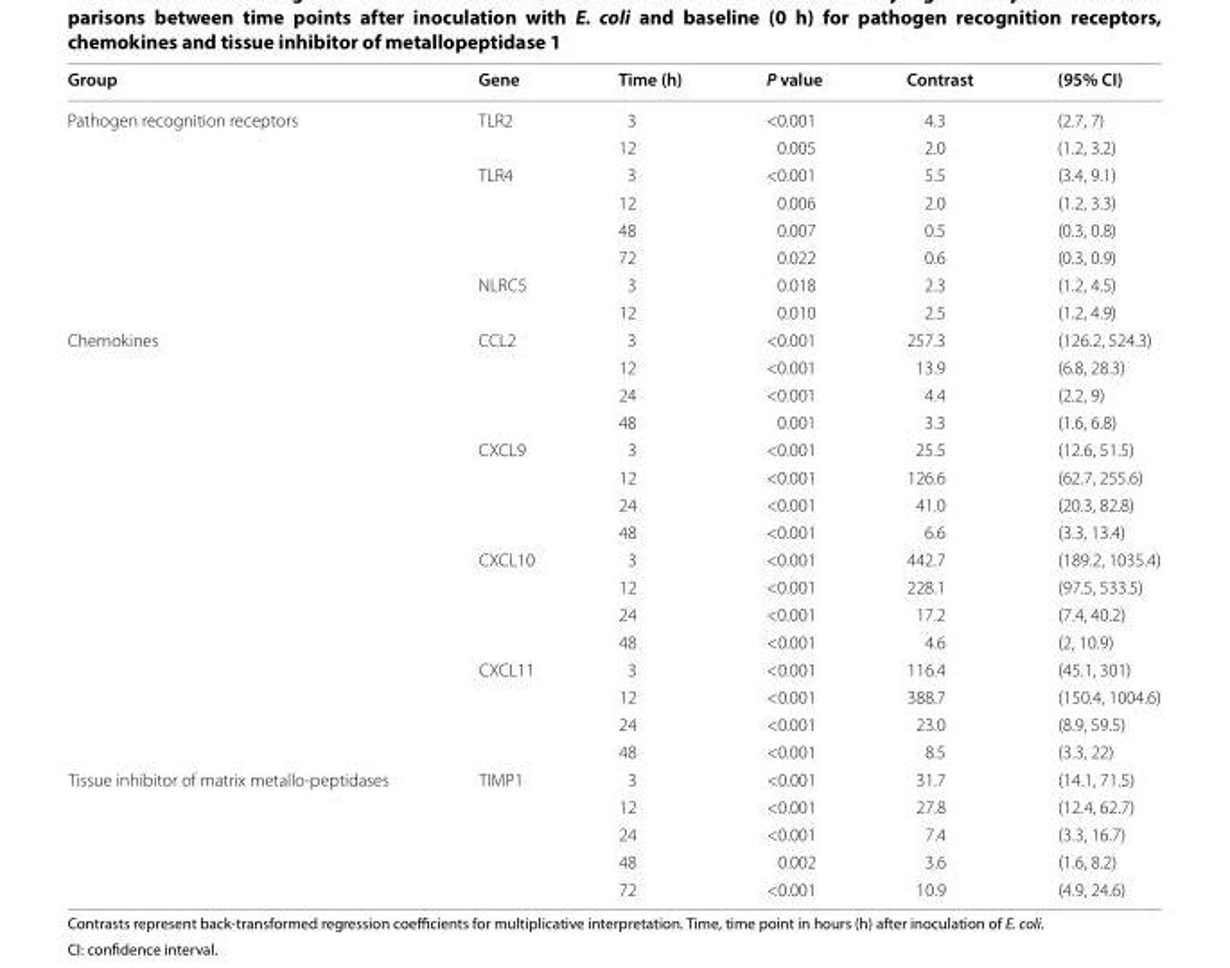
<table><thead><tr><td>Group</td><td>Gene</td><td>Time (h)</td><td>P value</td><td>Contrast</td><td>(95% CI)</td></tr></thead><tbody><tr><td rowspan="8">Pathogen recognition receptors</td><td rowspan="2">TLR2</td><td>3</td><td>&lt;0.001</td><td>4.3</td><td>(2.7, 7)</td></tr><tr><td>12</td><td>0.005</td><td>2.0</td><td>(1.2, 3.2)</td></tr><tr><td rowspan="4">TLR4</td><td>3</td><td>&lt;0.001</td><td>5.5</td><td>(3.4, 9.1)</td></tr><tr><td>12</td><td>0.006</td><td>2.0</td><td>(1.2, 3.3)</td></tr><tr><td>48</td><td>0.007</td><td>0.5</td><td>(0.3, 0.8)</td></tr><tr><td>72</td><td>0.022</td><td>0.6</td><td>(0.3, 0.9)</td></tr><tr><td rowspan="2">NLRC5</td><td>3</td><td>0.018</td><td>2.3</td><td>(1.2, 4.5)</td></tr><tr><td>12</td><td>0.010</td><td>2.5</td><td>(1.2, 4.9)</td></tr><tr><td rowspan="16">Chemokines</td><td rowspan="4">CCL2</td><td>3</td><td>&lt;0.001</td><td>257.3</td><td>(126.2, 524.3)</td></tr><tr><td>12</td><td>&lt;0.001</td><td>13.9</td><td>(6.8, 28.3)</td></tr><tr><td>24</td><td>&lt;0.001</td><td>4.4</td><td>(2.2, 9)</td></tr><tr><td>48</td><td>0.001</td><td>3.3</td><td>(1.6, 6.8)</td></tr><tr><td rowspan="4">CXCL9</td><td>3</td><td>&lt;0.001</td><td>25.5</td><td>(12.6, 51.5)</td></tr><tr><td>12</td><td>&lt;0.001</td><td>126.6</td><td>(62.7, 255.6)</td></tr><tr><td>24</td><td>&lt;0.001</td><td>41.0</td><td>(20.3, 82.8)</td></tr><tr><td>48</td><td>&lt;0.001</td><td>6.6</td><td>(3.3, 13.4)</td></tr><tr><td rowspan="4">CXCL10</td><td>3</td><td>&lt;0.001</td><td>442.7</td><td>(189.2, 1035.4)</td></tr><tr><td>12</td><td>&lt;0.001</td><td>228.1</td><td>(97.5, 533.5)</td></tr><tr><td>24</td><td>&lt;0.001</td><td>17.2</td><td>(7.4, 40.2)</td></tr><tr><td>48</td><td>&lt;0.001</td><td>4.6</td><td>(2, 10.9)</td></tr><tr><td rowspan="4">CXCL11</td><td>3</td><td>&lt;0.001</td><td>116.4</td><td>(45.1, 301)</td></tr><tr><td>12</td><td>&lt;0.001</td><td>388.7</td><td>(150.4, 1004.6)</td></tr><tr><td>24</td><td>&lt;0.001</td><td>23.0</td><td>(8.9, 59.5)</td></tr><tr><td>48</td><td>&lt;0.001</td><td>8.5</td><td>(3.3, 22)</td></tr><tr><td rowspan="5">Tissue inhibitor of matrix metallo-peptidases</td><td rowspan="5">TIMP1</td><td>3</td><td>&lt;0.001</td><td>31.7</td><td>(14.1, 71.5)</td></tr><tr><td>12</td><td>&lt;0.001</td><td>27.8</td><td>(12.4, 62.7)</td></tr><tr><td>24</td><td>&lt;0.001</td><td>7.4</td><td>(3.3, 16.7)</td></tr><tr><td>48</td><td>0.002</td><td>3.6</td><td>(1.6, 8.2)</td></tr><tr><td>72</td><td>&lt;0.001</td><td>10.9</td><td>(4.9, 24.6)</td></tr></tbody></table>